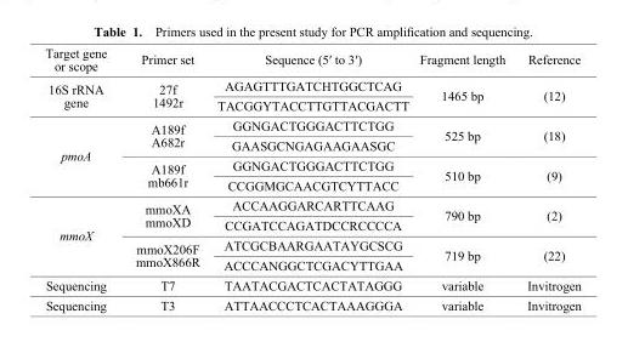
<table><thead><tr><td>Target gene or scope</td><td>Primer set</td><td>Sequence (5′ to 3′)</td><td>Fragment length</td><td>Reference</td></tr></thead><tbody><tr><td rowspan="2">16S rRNA gene</td><td rowspan="2">27f 1492r</td><td>AGAGTTTGATCHTGGCTCAG</td><td rowspan="2">1465 bp</td><td rowspan="2">(12)</td></tr><tr><td>TACGGYTACCTTGTTACGACTT</td></tr><tr><td rowspan="4">pmoA</td><td rowspan="2">A189f A682r</td><td>GGNGACTGGGACTTCTGG</td><td rowspan="2">525 bp</td><td rowspan="2">(18)</td></tr><tr><td>GAASGCNGAGAAGAASGC</td></tr><tr><td rowspan="2">A189f mb661r</td><td>GGNGACTGGGACTTCTGG</td><td rowspan="2">510 bp</td><td rowspan="2">(9)</td></tr><tr><td>CCGGMGCAACGTCYTTACC</td></tr><tr><td rowspan="4">mmoX</td><td rowspan="2">mmoXA mmoXD</td><td>ACCAAGGARCARTTCAAG</td><td rowspan="2">790 bp</td><td rowspan="2">(2)</td></tr><tr><td>CCGATCCAGATDCCRCCCCA</td></tr><tr><td rowspan="2">mmoX206F mmoX866R</td><td>ATCGCBAARGAATAYGCSCG</td><td rowspan="2">719 bp</td><td rowspan="2">(22)</td></tr><tr><td>ACCCANGGCTCGACYTTGAA</td></tr><tr><td>Sequencing</td><td>T7</td><td>TAATACGACTCACTATAGGG</td><td>variable</td><td>Invitrogen</td></tr><tr><td>Sequencing</td><td>T3</td><td>ATTAACCCTCACTAAAGGGA</td><td>variable</td><td>Invitrogen</td></tr></tbody></table>